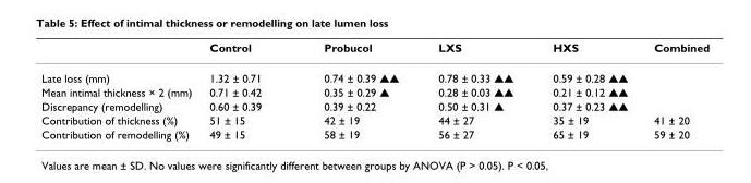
<table><thead><tr><td></td><td>Control</td><td>Probucol</td><td>LXS</td><td>HXS</td><td>Combined</td></tr></thead><tbody><tr><td>Late loss (mm)</td><td>1.32 ± 0.71</td><td>0.74 ± 0.39 ▲▲</td><td>0.78 ± 0.33 ▲▲</td><td>0.59 ± 0.28 ▲▲</td><td></td></tr><tr><td>Mean intimal thickness × 2 (mm)</td><td>0.71 ± 0.42</td><td>0.35 ± 0.29 ▲</td><td>0.28 ± 0.03 ▲▲</td><td>0.21 ± 0.12 ▲▲</td><td></td></tr><tr><td>Discrepancy (remodelling)</td><td>0.60 ± 0.39</td><td>0.39 ± 0.22</td><td>0.50 ± 0.31 ▲</td><td>0.37 ± 0.23 ▲▲</td><td></td></tr><tr><td>Contribution of thickness (%)</td><td>51 ± 15</td><td>42 ± 19</td><td>44 ± 27</td><td>35 ± 19</td><td>41 ± 20</td></tr><tr><td>Contribution of remodelling (%)</td><td>49 ± 15</td><td>58 ± 19</td><td>56 ± 27</td><td>65 ± 19</td><td>59 ± 20</td></tr></tbody></table>